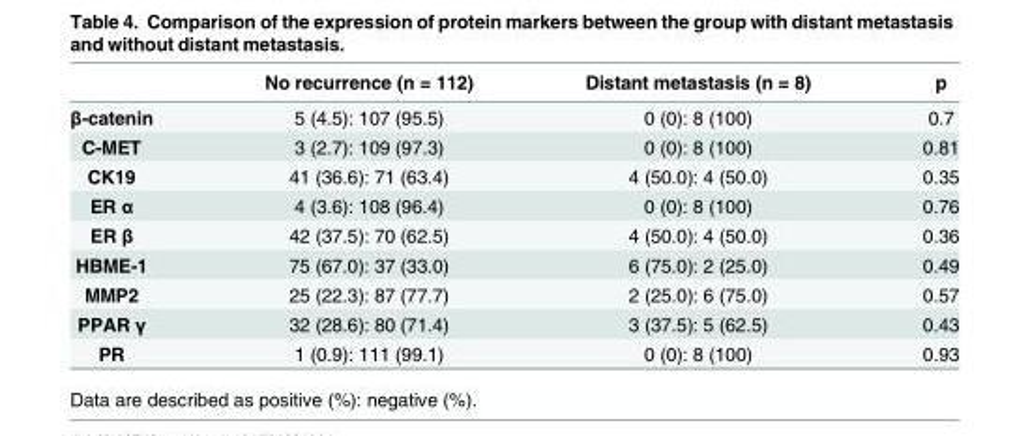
<table><thead><tr><td></td><td>No recurrence (n = 112)</td><td>Distant metastasis (n = 8)</td><td>p</td></tr></thead><tbody><tr><td>β-catenin</td><td>5 (4.5): 107 (95.5)</td><td>0 (0): 8 (100)</td><td>0.7</td></tr><tr><td>C-MET</td><td>3 (2.7): 109 (97.3)</td><td>0 (0): 8 (100)</td><td>0.81</td></tr><tr><td>CK19</td><td>41 (36.6): 71 (63.4)</td><td>4 (50.0): 4 (50.0)</td><td>0.35</td></tr><tr><td>ER α</td><td>4 (3.6): 108 (96.4)</td><td>0 (0): 8 (100)</td><td>0.76</td></tr><tr><td>ER β</td><td>42 (37.5): 70 (62.5)</td><td>4 (50.0): 4 (50.0)</td><td>0.36</td></tr><tr><td>HBME-1</td><td>75 (67.0): 37 (33.0)</td><td>6 (75.0): 2 (25.0)</td><td>0.49</td></tr><tr><td>MMP2</td><td>25 (22.3): 87 (77.7)</td><td>2 (25.0): 6 (75.0)</td><td>0.57</td></tr><tr><td>PPAR γ</td><td>32 (28.6): 80 (71.4)</td><td>3 (37.5): 5 (62.5)</td><td>0.43</td></tr><tr><td>PR</td><td>1 (0.9): 111 (99.1)</td><td>0 (0): 8 (100)</td><td>0.93</td></tr></tbody></table>